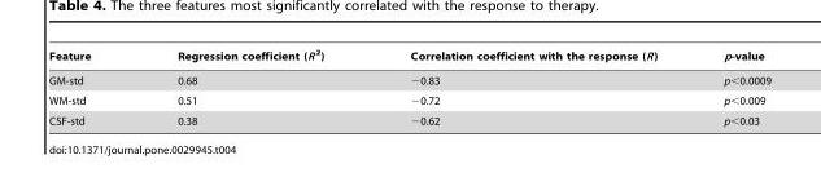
<table><thead><tr><td>Feature</td><td>Regression coefficient (R <sup>2</sup>)</td><td>Correlation coefficient with the response (R)</td><td>p-value</td></tr></thead><tbody><tr><td>GM-std</td><td>0.68</td><td>−0.83</td><td>p&lt;0.0009</td></tr><tr><td>WM-std</td><td>0.51</td><td>−0.72</td><td>p&lt;0.009</td></tr><tr><td>CSF-std</td><td>0.38</td><td>−0.62</td><td>p&lt;0.03</td></tr></tbody></table>